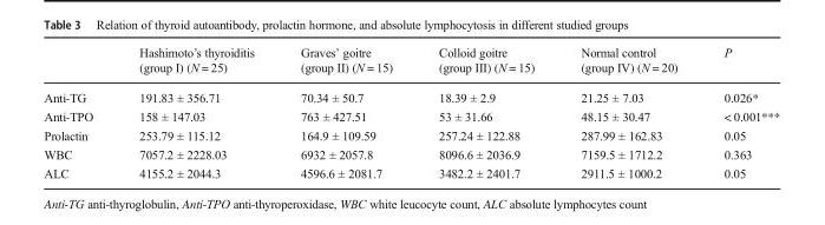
<table><thead><tr><td></td><td>Hashimoto’s thyroiditis (group I) (N = 25)</td><td>Graves’ goitre (group II) (N = 15)</td><td>Colloid goitre (group III) (N = 15)</td><td>Normal control (group IV) (N = 20)</td><td>P</td></tr></thead><tbody><tr><td>Anti-TG</td><td>191.83 ± 356.71</td><td>70.34 ± 50.7</td><td>18.39 ± 2.9</td><td>21.25 ± 7.03</td><td>0.026*</td></tr><tr><td>Anti-TPO</td><td>158 ± 147.03</td><td>763 ± 427.51</td><td>53 ± 31.66</td><td>48.15 ± 30.47</td><td>&lt; 0.001***</td></tr><tr><td>Prolactin</td><td>253.79 ± 115.12</td><td>164.9 ± 109.59</td><td>257.24 ± 122.88</td><td>287.99 ± 162.83</td><td>0.05</td></tr><tr><td>WBC</td><td>7057.2 ± 2228.03</td><td>6932 ± 2057.8</td><td>8096.6 ± 2036.9</td><td>7159.5 ± 1712.2</td><td>0.363</td></tr><tr><td>ALC</td><td>4155.2 ± 2044.3</td><td>4596.6 ± 2081.7</td><td>3482.2 ± 2401.7</td><td>2911.5 ± 1000.2</td><td>0.05</td></tr></tbody></table>